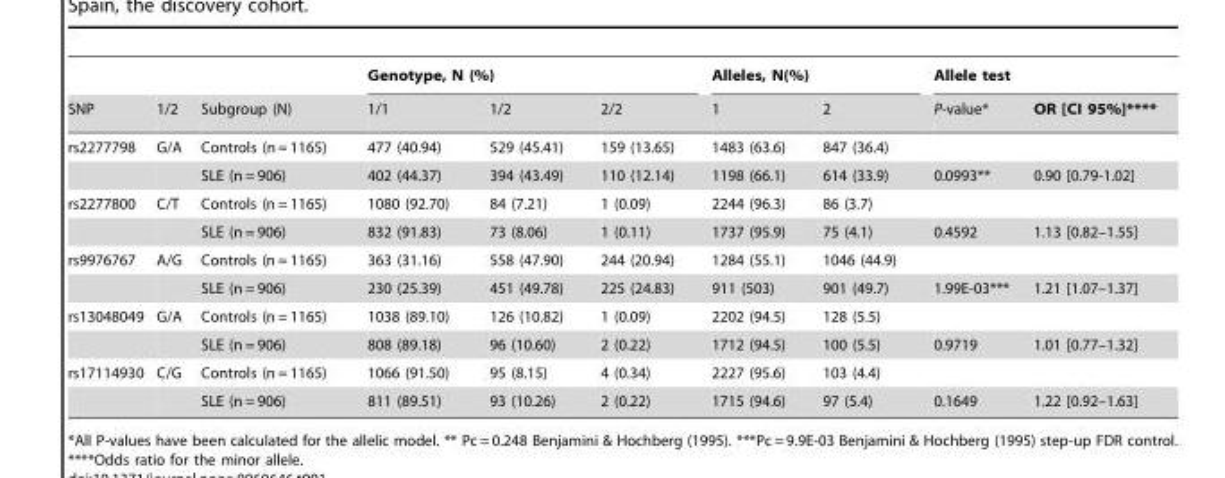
<table><thead><tr><td rowspan="2">SNP</td><td rowspan="2">1/2</td><td rowspan="2">Subgroup (N)</td><td colspan="3">Genotype, N (%)</td><td colspan="2">Alleles, N(%)</td><td colspan="2">Allele test</td></tr><tr><td>1/1</td><td>1/2</td><td>2/2</td><td>1</td><td>2</td><td>P-value*</td><td>OR [CI 95%]****</td></tr></thead><tbody><tr><td rowspan="2">rs2277798</td><td>G/A</td><td>Controls (n = 1165)</td><td>477 (40.94)</td><td>529 (45.41)</td><td>159 (13.65)</td><td>1483 (63.6)</td><td>847 (36.4)</td><td></td><td></td></tr><tr><td></td><td>SLE (n = 906)</td><td>402 (44.37)</td><td>394 (43.49)</td><td>110 (12.14)</td><td>1198 (66.1)</td><td>614 (33.9)</td><td>0.0993**</td><td>0.90 [0.79-1.02]</td></tr><tr><td rowspan="2">rs2277800</td><td>C/T</td><td>Controls (n = 1165)</td><td>1080 (92.70)</td><td>84 (7.21)</td><td>1 (0.09)</td><td>2244 (96.3)</td><td>86 (3.7)</td><td></td><td></td></tr><tr><td></td><td>SLE (n = 906)</td><td>832 (91.83)</td><td>73 (8.06)</td><td>1 (0.11)</td><td>1737 (95.9)</td><td>75 (4.1)</td><td>0.4592</td><td>1.13 [0.82–1.55]</td></tr><tr><td rowspan="2">rs9976767</td><td>A/G</td><td>Controls (n = 1165)</td><td>363 (31.16)</td><td>558 (47.90)</td><td>244 (20.94)</td><td>1284 (55.1)</td><td>1046 (44.9)</td><td></td><td></td></tr><tr><td></td><td>SLE (n = 906)</td><td>230 (25.39)</td><td>451 (49.78)</td><td>225 (24.83)</td><td>911 (503)</td><td>901 (49.7)</td><td>1.99E-03***</td><td>1.21 [1.07–1.37]</td></tr><tr><td rowspan="2">rs13048049</td><td>G/A</td><td>Controls (n = 1165)</td><td>1038 (89.10)</td><td>126 (10.82)</td><td>1 (0.09)</td><td>2202 (94.5)</td><td>128 (5.5)</td><td></td><td></td></tr><tr><td></td><td>SLE (n = 906)</td><td>808 (89.18)</td><td>96 (10.60)</td><td>2 (0.22)</td><td>1712 (94.5)</td><td>100 (5.5)</td><td>0.9719</td><td>1.01 [0.77–1.32]</td></tr><tr><td rowspan="2">rs17114930</td><td>C/G</td><td>Controls (n = 1165)</td><td>1066 (91.50)</td><td>95 (8.15)</td><td>4 (0.34)</td><td>2227 (95.6)</td><td>103 (4.4)</td><td></td><td></td></tr><tr><td></td><td>SLE (n = 906)</td><td>811 (89.51)</td><td>93 (10.26)</td><td>2 (0.22)</td><td>1715 (94.6)</td><td>97 (5.4)</td><td>0.1649</td><td>1.22 [0.92–1.63]</td></tr></tbody></table>